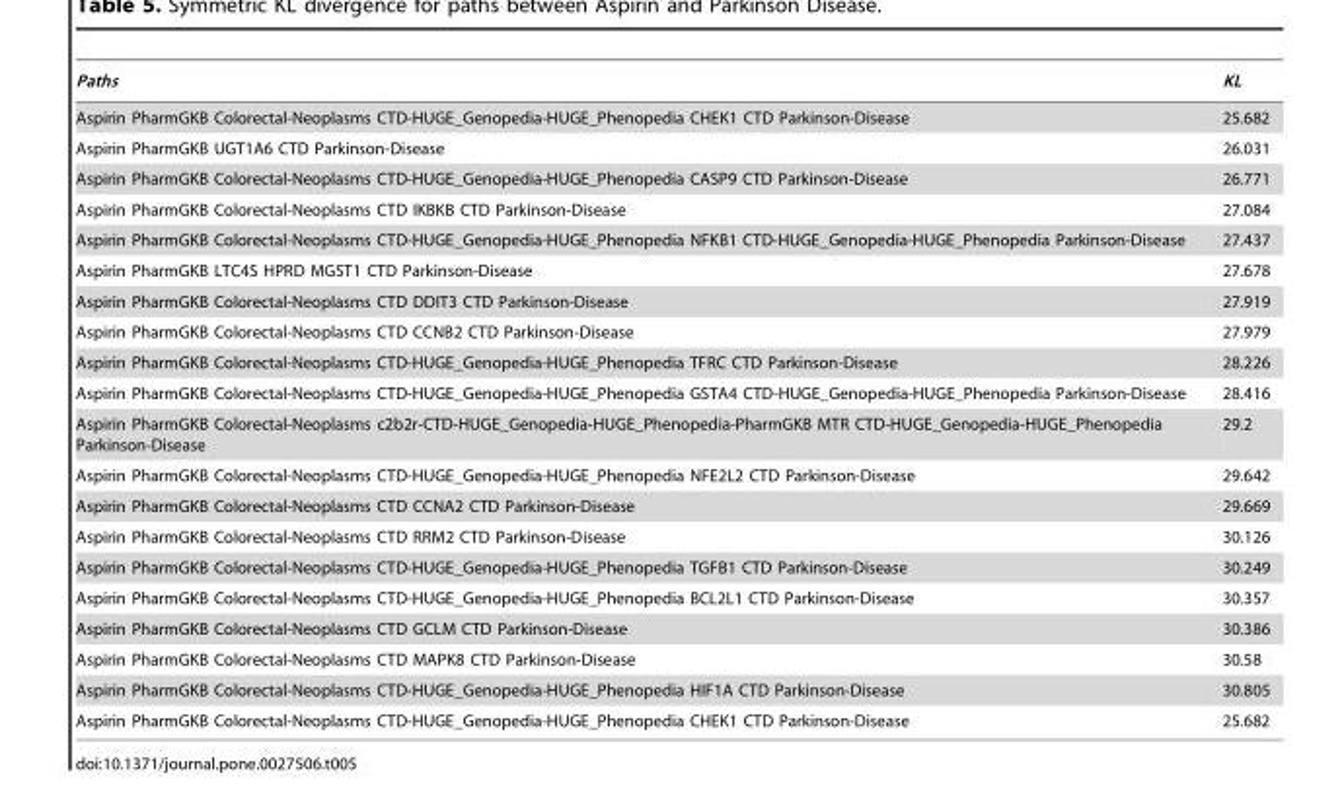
<table><thead><tr><td>Paths</td><td>KL</td></tr></thead><tbody><tr><td>Aspirin PharmGKB Colorectal-Neoplasms CTD-HUGE_Genopedia-HUGE_Phenopedia CHEK1 CTD Parkinson-Disease</td><td>25.682</td></tr><tr><td>Aspirin PharmGKB UGT1A6 CTD Parkinson-Disease</td><td>26.031</td></tr><tr><td>Aspirin PharmGKB Colorectal-Neoplasms CTD-HUGE_Genopedia-HUGE_Phenopedia CASP9 CTD Parkinson-Disease</td><td>26.771</td></tr><tr><td>Aspirin PharmGKB Colorectal-Neoplasms CTD IKBKB CTD Parkinson-Disease</td><td>27.084</td></tr><tr><td>Aspirin PharmGKB Colorectal-Neoplasms CTD-HUGE_Genopedia-HUGE_Phenopedia NFKB1 CTD-HUGE_Genopedia-HUGE_Phenopedia Parkinson-Disease</td><td>27.437</td></tr><tr><td>Aspirin PharmGKB LTC4S HPRD MGST1 CTD Parkinson-Disease</td><td>27.678</td></tr><tr><td>Aspirin PharmGKB Colorectal-Neoplasms CTD DDIT3 CTD Parkinson-Disease</td><td>27.919</td></tr><tr><td>Aspirin PharmGKB Colorectal-Neoplasms CTD CCNB2 CTD Parkinson-Disease</td><td>27.979</td></tr><tr><td>Aspirin PharmGKB Colorectal-Neoplasms CTD-HUGE_Genopedia-HUGE_Phenopedia TFRC CTD Parkinson-Disease</td><td>28.226</td></tr><tr><td>Aspirin PharmGKB Colorectal-Neoplasms CTD-HUGE_Genopedia-HUGE_Phenopedia GSTA4 CTD-HUGE_Genopedia-HUGE_Phenopedia Parkinson-Disease</td><td>28.416</td></tr><tr><td>Aspirin PharmGKB Colorectal-Neoplasms c2b2r-CTD-HUGE_Genopedia-HUGE_Phenopedia-PharmGKB MTR CTD-HUGE_Genopedia-HUGE_Phenopedia Parkinson-Disease</td><td>29.2</td></tr><tr><td>Aspirin PharmGKB Colorectal-Neoplasms CTD-HUGE_Genopedia-HUGE_Phenopedia NFE2L2 CTD Parkinson-Disease</td><td>29.642</td></tr><tr><td>Aspirin PharmGKB Colorectal-Neoplasms CTD CCNA2 CTD Parkinson-Disease</td><td>29.669</td></tr><tr><td>Aspirin PharmGKB Colorectal-Neoplasms CTD RRM2 CTD Parkinson-Disease</td><td>30.126</td></tr><tr><td>Aspirin PharmGKB Colorectal-Neoplasms CTD-HUGE_Genopedia-HUGE_Phenopedia TGFB1 CTD Parkinson-Disease</td><td>30.249</td></tr><tr><td>Aspirin PharmGKB Colorectal-Neoplasms CTD-HUGE_Genopedia-HUGE_Phenopedia BCL2L1 CTD Parkinson-Disease</td><td>30.357</td></tr><tr><td>Aspirin PharmGKB Colorectal-Neoplasms CTD GCLM CTD Parkinson-Disease</td><td>30.386</td></tr><tr><td>Aspirin PharmGKB Colorectal-Neoplasms CTD MAPK8 CTD Parkinson-Disease</td><td>30.58</td></tr><tr><td>Aspirin PharmGKB Colorectal-Neoplasms CTD-HUGE_Genopedia-HUGE_Phenopedia HIF1A CTD Parkinson-Disease</td><td>30.805</td></tr><tr><td>Aspirin PharmGKB Colorectal-Neoplasms CTD-HUGE_Genopedia-HUGE_Phenopedia CHEK1 CTD Parkinson-Disease</td><td>25.682</td></tr></tbody></table>